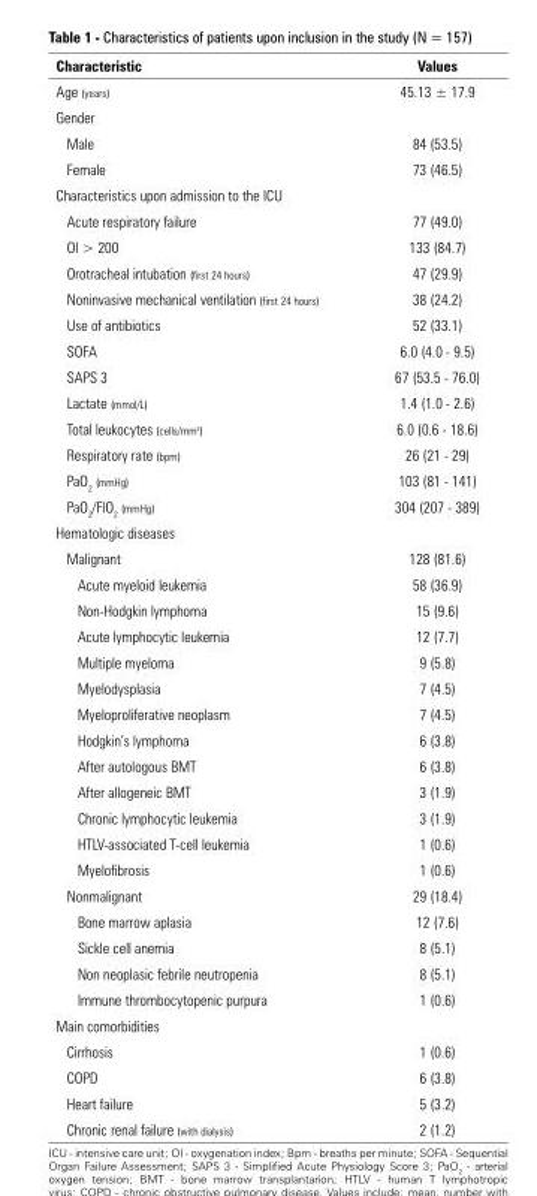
<table><thead><tr><td>Characteristic</td><td>Values</td></tr></thead><tbody><tr><td>Age (years)</td><td>45.13 ± 17.9</td></tr><tr><td colspan="2">Gender</td></tr><tr><td>Male</td><td>84 (53.5)</td></tr><tr><td>Female</td><td>73 (46.5)</td></tr><tr><td colspan="2">Characteristics upon admission to the ICU</td></tr><tr><td>Acute respiratory failure</td><td>77 (49.0)</td></tr><tr><td>OI &gt; 200</td><td>133 (84.7)</td></tr><tr><td>Orotracheal intubation (first 24 hours)</td><td>47 (29.9)</td></tr><tr><td>Noninvasive mechanical ventilation (first 24 hours)</td><td>38 (24.2)</td></tr><tr><td>Use of antibiotics</td><td>52 (33.1)</td></tr><tr><td>SOFA</td><td>6.0 (4.0 - 9.5)</td></tr><tr><td>SAPS 3</td><td>67 (53.5 - 76.0)</td></tr><tr><td>Lactate (mmol/L)</td><td>1.4 (1.0 - 2.6)</td></tr><tr><td>Total leukocytes (cells/mm<sup>3</sup>)</td><td>6.0 (0.6 - 18.6)</td></tr><tr><td>Respiratory rate (bpm)</td><td>26 (21 - 29)</td></tr><tr><td>PaO<sub>2</sub> (mmHg)</td><td>103 (81 - 141)</td></tr><tr><td>PaO<sub>2</sub>/FIO<sub>2</sub> (mmHg)</td><td>304 (207 - 389)</td></tr><tr><td colspan="2">Hematologic diseases</td></tr><tr><td>Malignant</td><td>128 (81.6)</td></tr><tr><td>Acute myeloid leukemia</td><td>58 (36.9)</td></tr><tr><td>Non-Hodgkin lymphoma</td><td>15 (9.6)</td></tr><tr><td>Acute lymphocytic leukemia</td><td>12 (7.7)</td></tr><tr><td>Multiple myeloma</td><td>9 (5.8)</td></tr><tr><td>Myelodysplasia</td><td>7 (4.5)</td></tr><tr><td>Myeloproliferative neoplasm</td><td>7 (4.5)</td></tr><tr><td>Hodgkin’s lymphoma</td><td>6 (3.8)</td></tr><tr><td>After autologous BMT</td><td>6 (3.8)</td></tr><tr><td>After allogeneic BMT</td><td>3 (1.9)</td></tr><tr><td>Chronic lymphocytic leukemia</td><td>3 (1.9)</td></tr><tr><td>HTLV-associated T-cell leukemia</td><td>1 (0.6)</td></tr><tr><td>Myelofibrosis</td><td>1 (0.6)</td></tr><tr><td>Nonmalignant</td><td>29 (18.4)</td></tr><tr><td>Bone marrow aplasia</td><td>12 (7.6)</td></tr><tr><td>Sickle cell anemia</td><td>8 (5.1)</td></tr><tr><td>Non neoplasic febrile neutropenia</td><td>8 (5.1)</td></tr><tr><td>Immune thrombocytopenic purpura</td><td>1 (0.6)</td></tr><tr><td colspan="2">Main comorbidities</td></tr><tr><td>Cirrhosis</td><td>1 (0.6)</td></tr><tr><td>COPD</td><td>6 (3.8)</td></tr><tr><td>Heart failure</td><td>5 (3.2)</td></tr><tr><td>Chronic renal failure (with dialysis)</td><td>2 (1.2)</td></tr></tbody></table>